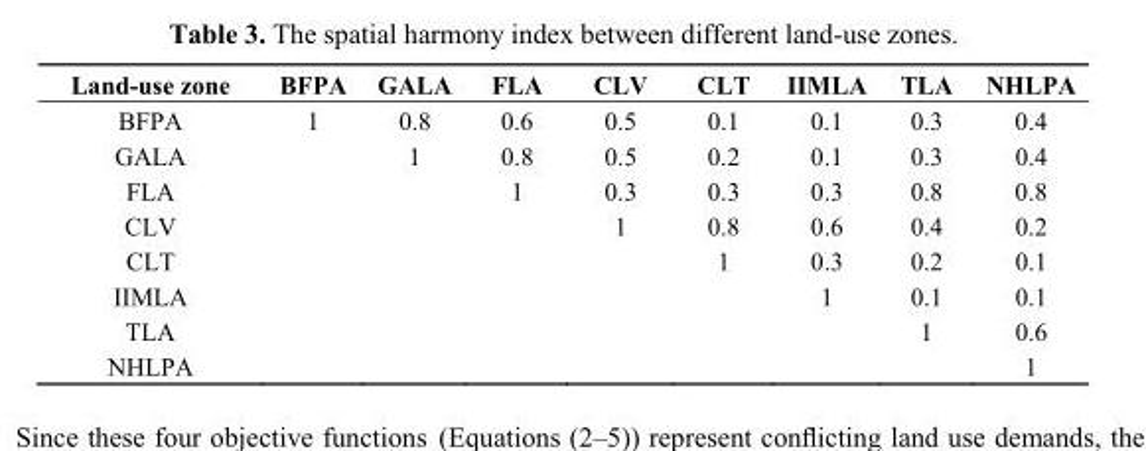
<table><thead><tr><td>Land-use zone</td><td>BFPA</td><td>GALA</td><td>FLA</td><td>CLV</td><td>CLT</td><td>IIMLA</td><td>TLA</td><td>NHLPA</td></tr></thead><tbody><tr><td>BFPA</td><td>1</td><td>0.8</td><td>0.6</td><td>0.5</td><td>0.1</td><td>0.1</td><td>0.3</td><td>0.4</td></tr><tr><td>GALA</td><td></td><td>1</td><td>0.8</td><td>0.5</td><td>0.2</td><td>0.1</td><td>0.3</td><td>0.4</td></tr><tr><td>FLA</td><td></td><td></td><td>1</td><td>0.3</td><td>0.3</td><td>0.3</td><td>0.8</td><td>0.8</td></tr><tr><td>CLV</td><td></td><td></td><td></td><td>1</td><td>0.8</td><td>0.6</td><td>0.4</td><td>0.2</td></tr><tr><td>CLT</td><td></td><td></td><td></td><td></td><td>1</td><td>0.3</td><td>0.2</td><td>0.1</td></tr><tr><td>IIMLA</td><td></td><td></td><td></td><td></td><td></td><td>1</td><td>0.1</td><td>0.1</td></tr><tr><td>TLA</td><td></td><td></td><td></td><td></td><td></td><td></td><td>1</td><td>0.6</td></tr><tr><td>NHLPA</td><td></td><td></td><td></td><td></td><td></td><td></td><td></td><td>1</td></tr></tbody></table>